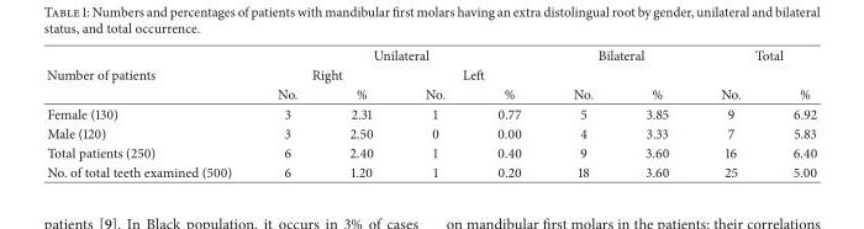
<table><thead><tr><td rowspan="3">Number of patients</td><td colspan="4">Unilateral</td><td colspan="2">Bilateral</td><td colspan="2">Total</td></tr><tr><td colspan="2">Right</td><td colspan="2">Left</td><td rowspan="2">No.</td><td rowspan="2">%</td><td rowspan="2">No.</td><td rowspan="2">%</td></tr><tr><td>No.</td><td>%</td><td>No.</td><td>%</td></tr></thead><tbody><tr><td>Female (130)</td><td>3</td><td>2.31</td><td>1</td><td>0.77</td><td>5</td><td>3.85</td><td>9</td><td>6.92</td></tr><tr><td>Male (120)</td><td>3</td><td>2.50</td><td>0</td><td>0.00</td><td>4</td><td>3.33</td><td>7</td><td>5.83</td></tr><tr><td>Total patients (250)</td><td>6</td><td>2.40</td><td>1</td><td>0.40</td><td>9</td><td>3.60</td><td>16</td><td>6.40</td></tr><tr><td>No. of total teeth examined (500)</td><td>6</td><td>1.20</td><td>1</td><td>0.20</td><td>18</td><td>3.60</td><td>25</td><td>5.00</td></tr></tbody></table>